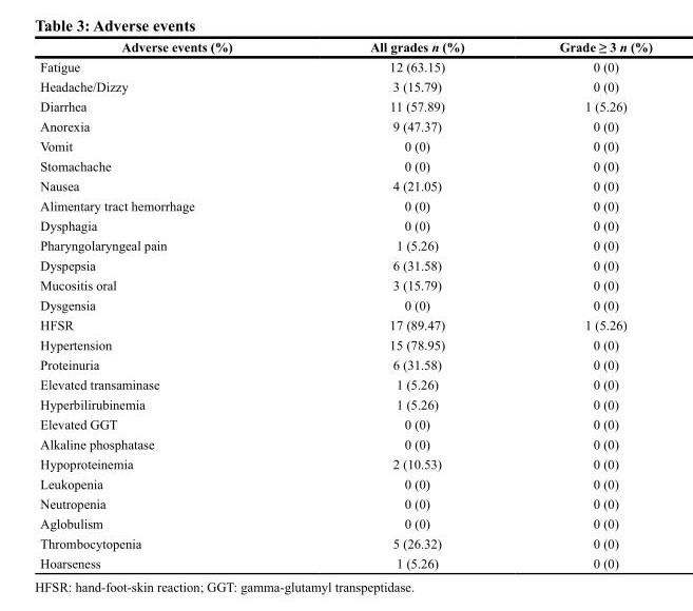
<table><thead><tr><td>Adverse events (%)</td><td>All grades n (%)</td><td>Grade ≥ 3 n (%)</td></tr></thead><tbody><tr><td>Fatigue</td><td>12 (63.15)</td><td>0 (0)</td></tr><tr><td>Headache/Dizzy</td><td>3 (15.79)</td><td>0 (0)</td></tr><tr><td>Diarrhea</td><td>11 (57.89)</td><td>1 (5.26)</td></tr><tr><td>Anorexia</td><td>9 (47.37)</td><td>0 (0)</td></tr><tr><td>Vomit</td><td>0 (0)</td><td>0 (0)</td></tr><tr><td>Stomachache</td><td>0 (0)</td><td>0 (0)</td></tr><tr><td>Nausea</td><td>4 (21.05)</td><td>0 (0)</td></tr><tr><td>Alimentary tract hemorrhage</td><td>0 (0)</td><td>0 (0)</td></tr><tr><td>Dysphagia</td><td>0 (0)</td><td>0 (0)</td></tr><tr><td>Pharyngolaryngeal pain</td><td>1 (5.26)</td><td>0 (0)</td></tr><tr><td>Dyspepsia</td><td>6 (31.58)</td><td>0 (0)</td></tr><tr><td>Mucositis oral</td><td>3 (15.79)</td><td>0 (0)</td></tr><tr><td>Dysgensia</td><td>0 (0)</td><td>0 (0)</td></tr><tr><td>HFSR</td><td>17 (89.47)</td><td>1 (5.26)</td></tr><tr><td>Hypertension</td><td>15 (78.95)</td><td>0 (0)</td></tr><tr><td>Proteinuria</td><td>6 (31.58)</td><td>0 (0)</td></tr><tr><td>Elevated transaminase</td><td>1 (5.26)</td><td>0 (0)</td></tr><tr><td>Hyperbilirubinemia</td><td>1 (5.26)</td><td>0 (0)</td></tr><tr><td>Elevated GGT</td><td>0 (0)</td><td>0 (0)</td></tr><tr><td>Alkaline phosphatase</td><td>0 (0)</td><td>0 (0)</td></tr><tr><td>Hypoproteinemia</td><td>2 (10.53)</td><td>0 (0)</td></tr><tr><td>Leukopenia</td><td>0 (0)</td><td>0 (0)</td></tr><tr><td>Neutropenia</td><td>0 (0)</td><td>0 (0)</td></tr><tr><td>Aglobulism</td><td>0 (0)</td><td>0 (0)</td></tr><tr><td>Thrombocytopenia</td><td>5 (26.32)</td><td>0 (0)</td></tr><tr><td>Hoarseness</td><td>1 (5.26)</td><td>0 (0)</td></tr></tbody></table>